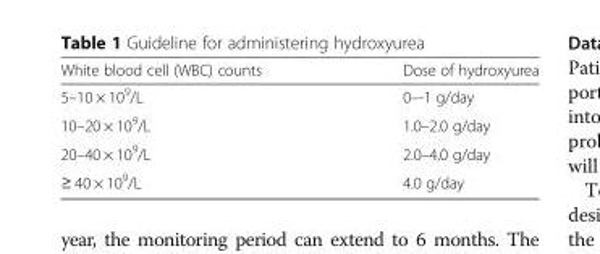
<table><thead><tr><td>White blood cell (WBC) counts</td><td>Dose of hydroxyurea</td></tr></thead><tbody><tr><td>5–10 × 10<sup>9</sup>/L</td><td>0–-1 g/day</td></tr><tr><td>10–20 × 10<sup>9</sup>/L</td><td>1.0–2.0 g/day</td></tr><tr><td>20–40 × 10<sup>9</sup>/L</td><td>2.0–4.0 g/day</td></tr><tr><td>≥ 40 × 10<sup>9</sup>/L</td><td>4.0 g/day</td></tr></tbody></table>